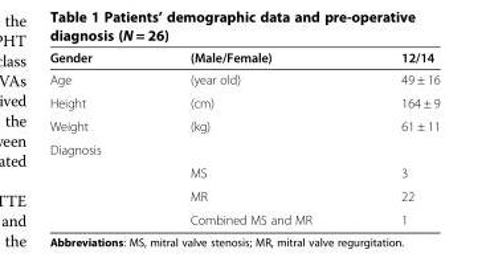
<table><thead><tr><td>Gender</td><td>(Male/Female)</td><td>12/14</td></tr></thead><tbody><tr><td>Age</td><td>(year old)</td><td>49 ± 16</td></tr><tr><td>Height</td><td>(cm)</td><td>164 ± 9</td></tr><tr><td>Weight</td><td>(kg)</td><td>61 ± 11</td></tr><tr><td colspan="3">Diagnosis</td></tr><tr><td></td><td>MS</td><td>3</td></tr><tr><td></td><td>MR</td><td>22</td></tr><tr><td></td><td>Combined MS and MR</td><td>1</td></tr></tbody></table>